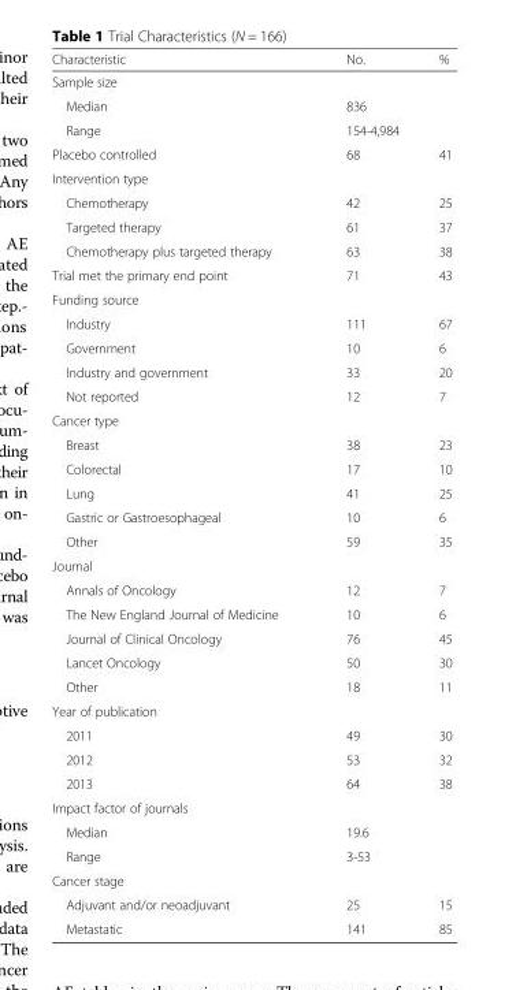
<table><thead><tr><td>Characteristic</td><td>No.</td><td>%</td></tr></thead><tbody><tr><td colspan="3">Sample size</td></tr><tr><td>Median</td><td colspan="2">836</td></tr><tr><td>Range</td><td colspan="2">154-4,984</td></tr><tr><td>Placebo controlled</td><td>68</td><td>41</td></tr><tr><td colspan="3">Intervention type</td></tr><tr><td>Chemotherapy</td><td>42</td><td>25</td></tr><tr><td>Targeted therapy</td><td>61</td><td>37</td></tr><tr><td>Chemotherapy plus targeted therapy</td><td>63</td><td>38</td></tr><tr><td>Trial met the primary end point</td><td>71</td><td>43</td></tr><tr><td colspan="3">Funding source</td></tr><tr><td>Industry</td><td>111</td><td>67</td></tr><tr><td>Government</td><td>10</td><td>6</td></tr><tr><td>Industry and government</td><td>33</td><td>20</td></tr><tr><td>Not reported</td><td>12</td><td>7</td></tr><tr><td colspan="3">Cancer type</td></tr><tr><td>Breast</td><td>38</td><td>23</td></tr><tr><td>Colorectal</td><td>17</td><td>10</td></tr><tr><td>Lung</td><td>41</td><td>25</td></tr><tr><td>Gastric or Gastroesophageal</td><td>10</td><td>6</td></tr><tr><td>Other</td><td>59</td><td>35</td></tr><tr><td colspan="3">Journal</td></tr><tr><td>Annals of Oncology</td><td>12</td><td>7</td></tr><tr><td>The New England Journal of Medicine</td><td>10</td><td>6</td></tr><tr><td>Journal of Clinical Oncology</td><td>76</td><td>45</td></tr><tr><td>Lancet Oncology</td><td>50</td><td>30</td></tr><tr><td>Other</td><td>18</td><td>11</td></tr><tr><td colspan="3">Year of publication</td></tr><tr><td>2011</td><td>49</td><td>30</td></tr><tr><td>2012</td><td>53</td><td>32</td></tr><tr><td>2013</td><td>64</td><td>38</td></tr><tr><td colspan="3">Impact factor of journals</td></tr><tr><td>Median</td><td colspan="2">19.6</td></tr><tr><td>Range</td><td colspan="2">3-53</td></tr><tr><td colspan="3">Cancer stage</td></tr><tr><td>Adjuvant and/or neoadjuvant</td><td>25</td><td>15</td></tr><tr><td>Metastatic</td><td>141</td><td>85</td></tr></tbody></table>